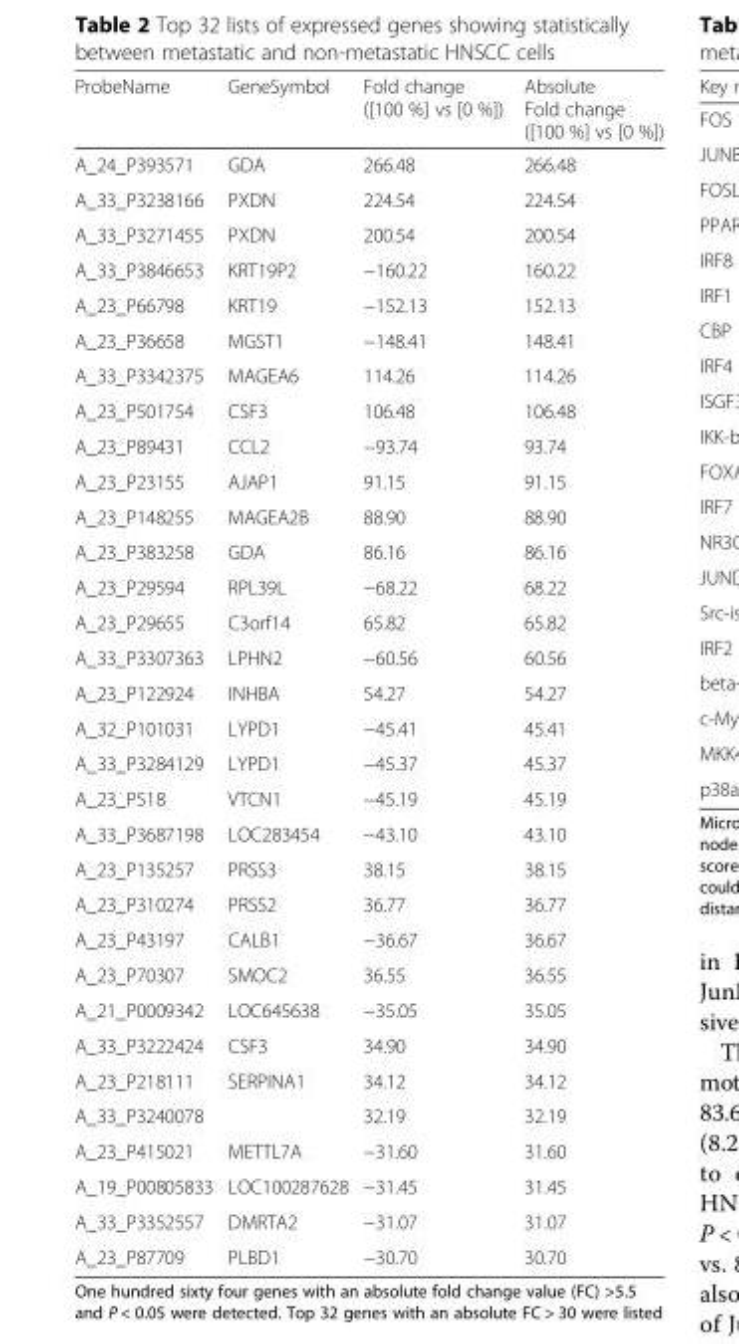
<table><thead><tr><td>ProbeName</td><td>GeneSymbol</td><td>Fold change ([100 %] vs [0 %])</td><td>Absolute Fold change ([100 %] vs [0 %])</td></tr></thead><tbody><tr><td>A_24_P393571</td><td>GDA</td><td>266.48</td><td>266.48</td></tr><tr><td>A_33_P3238166</td><td>PXDN</td><td>224.54</td><td>224.54</td></tr><tr><td>A_33_P3271455</td><td>PXDN</td><td>200.54</td><td>200.54</td></tr><tr><td>A_33_P3846653</td><td>KRT19P2</td><td>−160.22</td><td>160.22</td></tr><tr><td>A_23_P66798</td><td>KRT19</td><td>−152.13</td><td>152.13</td></tr><tr><td>A_23_P36658</td><td>MGST1</td><td>−148.41</td><td>148.41</td></tr><tr><td>A_33_P3342375</td><td>MAGEA6</td><td>114.26</td><td>114.26</td></tr><tr><td>A_23_P501754</td><td>CSF3</td><td>106.48</td><td>106.48</td></tr><tr><td>A_23_P89431</td><td>CCL2</td><td>−93.74</td><td>93.74</td></tr><tr><td>A_23_P23155</td><td>AJAP1</td><td>91.15</td><td>91.15</td></tr><tr><td>A_23_P148255</td><td>MAGEA2B</td><td>88.90</td><td>88.90</td></tr><tr><td>A_23_P383258</td><td>GDA</td><td>86.16</td><td>86.16</td></tr><tr><td>A_23_P29594</td><td>RPL39L</td><td>−68.22</td><td>68.22</td></tr><tr><td>A_23_P29655</td><td>C3orf14</td><td>65.82</td><td>65.82</td></tr><tr><td>A_33_P3307363</td><td>LPHN2</td><td>−60.56</td><td>60.56</td></tr><tr><td>A_23_P122924</td><td>INHBA</td><td>54.27</td><td>54.27</td></tr><tr><td>A_32_P101031</td><td>LYPD1</td><td>−45.41</td><td>45.41</td></tr><tr><td>A_33_P3284129</td><td>LYPD1</td><td>−45.37</td><td>45.37</td></tr><tr><td>A_23_P518</td><td>VTCN1</td><td>−45.19</td><td>45.19</td></tr><tr><td>A_33_P3687198</td><td>LOC283454</td><td>−43.10</td><td>43.10</td></tr><tr><td>A_23_P135257</td><td>PRSS3</td><td>38.15</td><td>38.15</td></tr><tr><td>A_23_P310274</td><td>PRSS2</td><td>36.77</td><td>36.77</td></tr><tr><td>A_23_P43197</td><td>CALB1</td><td>−36.67</td><td>36.67</td></tr><tr><td>A_23_P70307</td><td>SMOC2</td><td>36.55</td><td>36.55</td></tr><tr><td>A_21_P0009342</td><td>LOC645638</td><td>−35.05</td><td>35.05</td></tr><tr><td>A_33_P3222424</td><td>CSF3</td><td>34.90</td><td>34.90</td></tr><tr><td>A_23_P218111</td><td>SERPINA1</td><td>34.12</td><td>34.12</td></tr><tr><td>A_33_P3240078</td><td></td><td>32.19</td><td>32.19</td></tr><tr><td>A_23_P415021</td><td>METTL7A</td><td>−31.60</td><td>31.60</td></tr><tr><td>A_19_P00805833</td><td>LOC100287628</td><td>−31.45</td><td>31.45</td></tr><tr><td>A_33_P3352557</td><td>DMRTA2</td><td>−31.07</td><td>31.07</td></tr><tr><td>A_23_P87709</td><td>PLBD1</td><td>−30.70</td><td>30.70</td></tr></tbody></table>